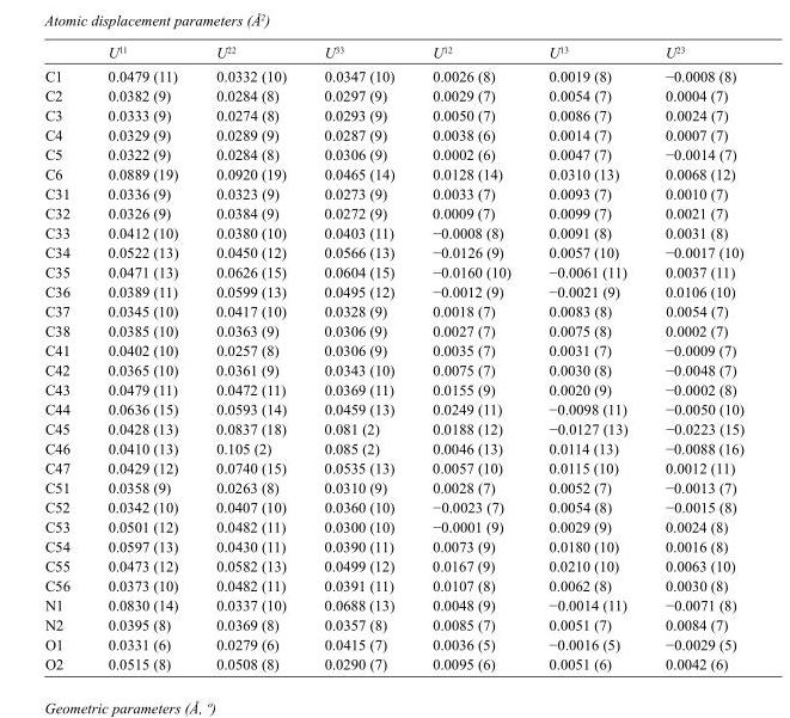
<table><thead><tr><td></td><td>U<sup>11</sup></td><td>U<sup>22</sup></td><td>U<sup>33</sup></td><td>U<sup>12</sup></td><td>U<sup>13</sup></td><td>U<sup>23</sup></td></tr></thead><tbody><tr><td>C1</td><td>0.0479 (11)</td><td>0.0332 (10)</td><td>0.0347 (10)</td><td>0.0026 (8)</td><td>0.0019 (8)</td><td>−0.0008 (8)</td></tr><tr><td>C2</td><td>0.0382 (9)</td><td>0.0284 (8)</td><td>0.0297 (9)</td><td>0.0029 (7)</td><td>0.0054 (7)</td><td>0.0004 (7)</td></tr><tr><td>C3</td><td>0.0333 (9)</td><td>0.0274 (8)</td><td>0.0293 (9)</td><td>0.0050 (7)</td><td>0.0086 (7)</td><td>0.0024 (7)</td></tr><tr><td>C4</td><td>0.0329 (9)</td><td>0.0289 (9)</td><td>0.0287 (9)</td><td>0.0038 (6)</td><td>0.0014 (7)</td><td>0.0007 (7)</td></tr><tr><td>C5</td><td>0.0322 (9)</td><td>0.0284 (8)</td><td>0.0306 (9)</td><td>0.0002 (6)</td><td>0.0047 (7)</td><td>−0.0014 (7)</td></tr><tr><td>C6</td><td>0.0889 (19)</td><td>0.0920 (19)</td><td>0.0465 (14)</td><td>0.0128 (14)</td><td>0.0310 (13)</td><td>0.0068 (12)</td></tr><tr><td>C31</td><td>0.0336 (9)</td><td>0.0323 (9)</td><td>0.0273 (9)</td><td>0.0033 (7)</td><td>0.0093 (7)</td><td>0.0010 (7)</td></tr><tr><td>C32</td><td>0.0326 (9)</td><td>0.0384 (9)</td><td>0.0272 (9)</td><td>0.0009 (7)</td><td>0.0099 (7)</td><td>0.0021 (7)</td></tr><tr><td>C33</td><td>0.0412 (10)</td><td>0.0380 (10)</td><td>0.0403 (11)</td><td>−0.0008 (8)</td><td>0.0091 (8)</td><td>0.0031 (8)</td></tr><tr><td>C34</td><td>0.0522 (13)</td><td>0.0450 (12)</td><td>0.0566 (13)</td><td>−0.0126 (9)</td><td>0.0057 (10)</td><td>−0.0017 (10)</td></tr><tr><td>C35</td><td>0.0471 (13)</td><td>0.0626 (15)</td><td>0.0604 (15)</td><td>−0.0160 (10)</td><td>−0.0061 (11)</td><td>0.0037 (11)</td></tr><tr><td>C36</td><td>0.0389 (11)</td><td>0.0599 (13)</td><td>0.0495 (12)</td><td>−0.0012 (9)</td><td>−0.0021 (9)</td><td>0.0106 (10)</td></tr><tr><td>C37</td><td>0.0345 (10)</td><td>0.0417 (10)</td><td>0.0328 (9)</td><td>0.0018 (7)</td><td>0.0083 (8)</td><td>0.0054 (7)</td></tr><tr><td>C38</td><td>0.0385 (10)</td><td>0.0363 (9)</td><td>0.0306 (9)</td><td>0.0027 (7)</td><td>0.0075 (8)</td><td>0.0002 (7)</td></tr><tr><td>C41</td><td>0.0402 (10)</td><td>0.0257 (8)</td><td>0.0306 (9)</td><td>0.0035 (7)</td><td>0.0031 (7)</td><td>−0.0009 (7)</td></tr><tr><td>C42</td><td>0.0365 (10)</td><td>0.0361 (9)</td><td>0.0343 (10)</td><td>0.0075 (7)</td><td>0.0030 (8)</td><td>−0.0048 (7)</td></tr><tr><td>C43</td><td>0.0479 (11)</td><td>0.0472 (11)</td><td>0.0369 (11)</td><td>0.0155 (9)</td><td>0.0020 (9)</td><td>−0.0002 (8)</td></tr><tr><td>C44</td><td>0.0636 (15)</td><td>0.0593 (14)</td><td>0.0459 (13)</td><td>0.0249 (11)</td><td>−0.0098 (11)</td><td>−0.0050 (10)</td></tr><tr><td>C45</td><td>0.0428 (13)</td><td>0.0837 (18)</td><td>0.081 (2)</td><td>0.0188 (12)</td><td>−0.0127 (13)</td><td>−0.0223 (15)</td></tr><tr><td>C46</td><td>0.0410 (13)</td><td>0.105 (2)</td><td>0.085 (2)</td><td>0.0046 (13)</td><td>0.0114 (13)</td><td>−0.0088 (16)</td></tr><tr><td>C47</td><td>0.0429 (12)</td><td>0.0740 (15)</td><td>0.0535 (13)</td><td>0.0057 (10)</td><td>0.0115 (10)</td><td>0.0012 (11)</td></tr><tr><td>C51</td><td>0.0358 (9)</td><td>0.0263 (8)</td><td>0.0310 (9)</td><td>0.0028 (7)</td><td>0.0052 (7)</td><td>−0.0013 (7)</td></tr><tr><td>C52</td><td>0.0342 (10)</td><td>0.0407 (10)</td><td>0.0360 (10)</td><td>−0.0023 (7)</td><td>0.0054 (8)</td><td>−0.0015 (8)</td></tr><tr><td>C53</td><td>0.0501 (12)</td><td>0.0482 (11)</td><td>0.0300 (10)</td><td>−0.0001 (9)</td><td>0.0029 (9)</td><td>0.0024 (8)</td></tr><tr><td>C54</td><td>0.0597 (13)</td><td>0.0430 (11)</td><td>0.0390 (11)</td><td>0.0073 (9)</td><td>0.0180 (10)</td><td>0.0016 (8)</td></tr><tr><td>C55</td><td>0.0473 (12)</td><td>0.0582 (13)</td><td>0.0499 (12)</td><td>0.0167 (9)</td><td>0.0210 (10)</td><td>0.0063 (10)</td></tr><tr><td>C56</td><td>0.0373 (10)</td><td>0.0482 (11)</td><td>0.0391 (11)</td><td>0.0107 (8)</td><td>0.0062 (8)</td><td>0.0030 (8)</td></tr><tr><td>N1</td><td>0.0830 (14)</td><td>0.0337 (10)</td><td>0.0688 (13)</td><td>0.0048 (9)</td><td>−0.0014 (11)</td><td>−0.0071 (8)</td></tr><tr><td>N2</td><td>0.0395 (8)</td><td>0.0369 (8)</td><td>0.0357 (8)</td><td>0.0085 (7)</td><td>0.0051 (7)</td><td>0.0084 (7)</td></tr><tr><td>O1</td><td>0.0331 (6)</td><td>0.0279 (6)</td><td>0.0415 (7)</td><td>0.0036 (5)</td><td>−0.0016 (5)</td><td>−0.0029 (5)</td></tr><tr><td>O2</td><td>0.0515 (8)</td><td>0.0508 (8)</td><td>0.0290 (7)</td><td>0.0095 (6)</td><td>0.0051 (6)</td><td>0.0042 (6)</td></tr></tbody></table>